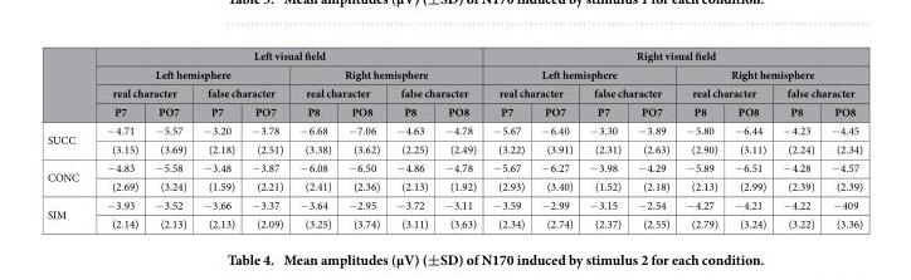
<table><thead><tr><td rowspan="4"></td><td colspan="8">Left visual field</td><td colspan="8">Right visual field</td></tr><tr><td colspan="4">Left hemisphere</td><td colspan="4">Right hemisphere</td><td colspan="4">Left hemisphere</td><td colspan="4">Right hemisphere</td></tr><tr><td colspan="2">real character</td><td colspan="2">false character</td><td colspan="2">real character</td><td colspan="2">false character</td><td colspan="2">real character</td><td colspan="2">false character</td><td colspan="2">real character</td><td colspan="2">false character</td></tr><tr><td>P7</td><td>PO7</td><td>P7</td><td>PO7</td><td>P8</td><td>PO8</td><td>P8</td><td>PO8</td><td>P7</td><td>PO7</td><td>P7</td><td>PO7</td><td>P8</td><td>PO8</td><td>P8</td><td>PO8</td></tr></thead><tbody><tr><td rowspan="2">SUCC</td><td>− 4.71</td><td>− 5.57</td><td>− 3.20</td><td>− 3.78</td><td>− 6.68</td><td>− 7.06</td><td>− 4.63</td><td>− 4.78</td><td>− 5.67</td><td>− 6.40</td><td>− 3.30</td><td>− 3.89</td><td>− 5.80</td><td>− 6.44</td><td>− 4.23</td><td>− 4.45</td></tr><tr><td>(3.15)</td><td>(3.69)</td><td>(2.18)</td><td>(2.51)</td><td>(3.38)</td><td>(3.62)</td><td>(2.25)</td><td>(2.49)</td><td>(3.22)</td><td>(3.91)</td><td>(2.31)</td><td>(2.63)</td><td>(2.90)</td><td>(3.11)</td><td>(2.24)</td><td>(2.34)</td></tr><tr><td rowspan="2">CONC</td><td>− 4.83</td><td>− 5.58</td><td>− 3.48</td><td>− 3.87</td><td>− 6.08</td><td>− 6.50</td><td>− 4.86</td><td>− 4.78</td><td>− 5.67</td><td>− 6.27</td><td>− 3.98</td><td>− 4.29</td><td>− 5.89</td><td>− 6.51</td><td>− 4.28</td><td>− 4.57</td></tr><tr><td>(2.69)</td><td>(3.24)</td><td>(1.59)</td><td>(2.21)</td><td>(2.41)</td><td>(2.36)</td><td>(2.13)</td><td>(1.92)</td><td>(2.93)</td><td>(3.40)</td><td>(1.52)</td><td>(2.18)</td><td>(2.13)</td><td>(2.99)</td><td>(2.39)</td><td>(2.39)</td></tr><tr><td rowspan="2">SIM</td><td>− 3.93</td><td>− 3.52</td><td>− 3.66</td><td>− 3.37</td><td>− 3.64</td><td>− 2.95</td><td>− 3.72</td><td>− 3.11</td><td>− 3.59</td><td>− 2.99</td><td>− 3.15</td><td>− 2.54</td><td>− 4.27</td><td>− 4.21</td><td>− 4.22</td><td>− 409</td></tr><tr><td>(2.14)</td><td>(2.13)</td><td>(2.13)</td><td>(2.09)</td><td>(3.25)</td><td>(3.74)</td><td>(3.11)</td><td>(3.63)</td><td>(2.34)</td><td>(2.74)</td><td>(2.37)</td><td>(2.55)</td><td>(2.79)</td><td>(3.24)</td><td>(3.22)</td><td>(3.36)</td></tr></tbody></table>